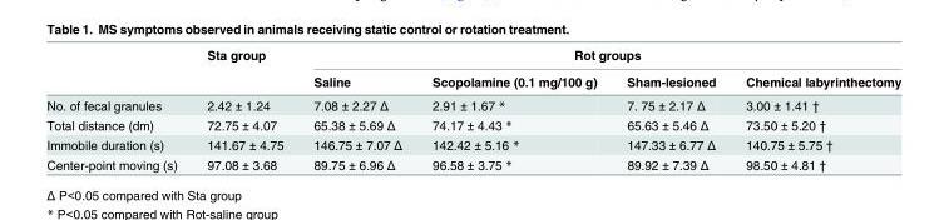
<table><thead><tr><td rowspan="2"></td><td rowspan="2">Sta group</td><td colspan="4">Rot groups</td></tr><tr><td>Saline</td><td>Scopolamine (0.1 mg/100 g)</td><td>Sham-lesioned</td><td>Chemical labyrinthectomy</td></tr></thead><tbody><tr><td>No. of fecal granules</td><td>2.42 ± 1.24</td><td>7.08 ± 2.27 Δ</td><td>2.91 ± 1.67 *</td><td>7. 75 ± 2.17 Δ</td><td>3.00 ± 1.41 †</td></tr><tr><td>Total distance (dm)</td><td>72.75 ± 4.07</td><td>65.38 ± 5.69 Δ</td><td>74.17 ± 4.43 *</td><td>65.63 ± 5.46 Δ</td><td>73.50 ± 5.20 †</td></tr><tr><td>Immobile duration (s)</td><td>141.67 ± 4.75</td><td>146.75 ± 7.07 Δ</td><td>142.42 ± 5.16 *</td><td>147.33 ± 6.77 Δ</td><td>140.75 ± 5.75 †</td></tr><tr><td>Center-point moving (s)</td><td>97.08 ± 3.68</td><td>89.75 ± 6.96 Δ</td><td>96.58 ± 3.75 *</td><td>89.92 ± 7.39 Δ</td><td>98.50 ± 4.81 †</td></tr></tbody></table>